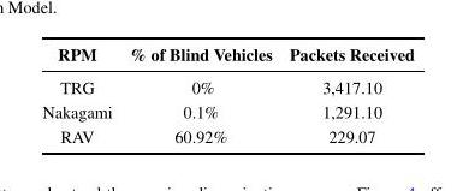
<table><thead><tr><td>RPM</td><td>% of Blind Vehicles</td><td>Packets Received</td></tr></thead><tbody><tr><td>TRG</td><td>0%</td><td>3,417.10</td></tr><tr><td>Nakagami</td><td>0.1%</td><td>1,291.10</td></tr><tr><td>RAV</td><td>60.92%</td><td>229.07</td></tr></tbody></table>